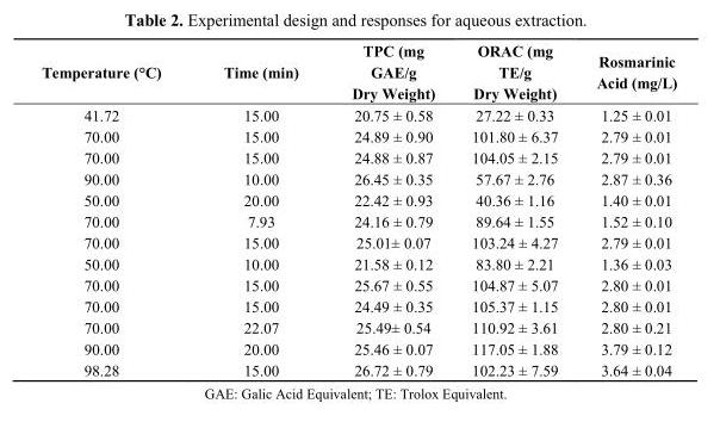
<table><thead><tr><td>Temperature (°C)</td><td>Time (min)</td><td>TPC (mg GAE/g Dry Weight)</td><td>ORAC (mg TE/g Dry Weight)</td><td>Rosmarinic Acid (mg/L)</td></tr></thead><tbody><tr><td>41.72</td><td>15.00</td><td>20.75 ± 0.58</td><td>27.22 ± 0.33</td><td>1.25 ± 0.01</td></tr><tr><td>70.00</td><td>15.00</td><td>24.89 ± 0.90</td><td>101.80 ± 6.37</td><td>2.79 ± 0.01</td></tr><tr><td>70.00</td><td>15.00</td><td>24.88 ± 0.87</td><td>104.05 ± 2.15</td><td>2.79 ± 0.01</td></tr><tr><td>90.00</td><td>10.00</td><td>26.45 ± 0.35</td><td>57.67 ± 2.76</td><td>2.87 ± 0.36</td></tr><tr><td>50.00</td><td>20.00</td><td>22.42 ± 0.93</td><td>40.36 ± 1.16</td><td>1.40 ± 0.01</td></tr><tr><td>70.00</td><td>7.93</td><td>24.16 ± 0.79</td><td>89.64 ± 1.55</td><td>1.52 ± 0.10</td></tr><tr><td>70.00</td><td>15.00</td><td>25.01± 0.07</td><td>103.24 ± 4.27</td><td>2.79 ± 0.01</td></tr><tr><td>50.00</td><td>10.00</td><td>21.58 ± 0.12</td><td>83.80 ± 2.21</td><td>1.36 ± 0.03</td></tr><tr><td>70.00</td><td>15.00</td><td>25.67 ± 0.55</td><td>104.87 ± 5.07</td><td>2.80 ± 0.01</td></tr><tr><td>70.00</td><td>15.00</td><td>24.49 ± 0.35</td><td>105.37 ± 1.15</td><td>2.80 ± 0.01</td></tr><tr><td>70.00</td><td>22.07</td><td>25.49± 0.54</td><td>110.92 ± 3.61</td><td>2.80 ± 0.21</td></tr><tr><td>90.00</td><td>20.00</td><td>25.46 ± 0.07</td><td>117.05 ± 1.88</td><td>3.79 ± 0.12</td></tr><tr><td>98.28</td><td>15.00</td><td>26.72 ± 0.79</td><td>102.23 ± 7.59</td><td>3.64 ± 0.04</td></tr></tbody></table>